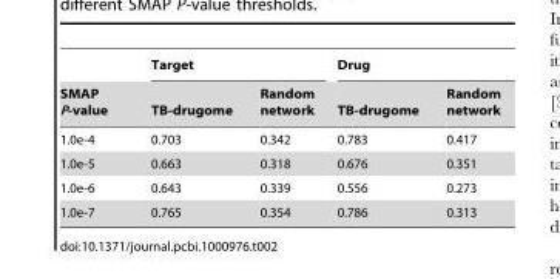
<table><thead><tr><td rowspan="2">SMAP P-value</td><td colspan="2">Target</td><td colspan="2">Drug</td></tr><tr><td>TB-drugome</td><td>Random network</td><td>TB-drugome</td><td>Random network</td></tr></thead><tbody><tr><td>1.0e-4</td><td>0.703</td><td>0.342</td><td>0.783</td><td>0.417</td></tr><tr><td>1.0e-5</td><td>0.663</td><td>0.318</td><td>0.676</td><td>0.351</td></tr><tr><td>1.0e-6</td><td>0.643</td><td>0.339</td><td>0.556</td><td>0.273</td></tr><tr><td>1.0e-7</td><td>0.765</td><td>0.354</td><td>0.786</td><td>0.313</td></tr></tbody></table>